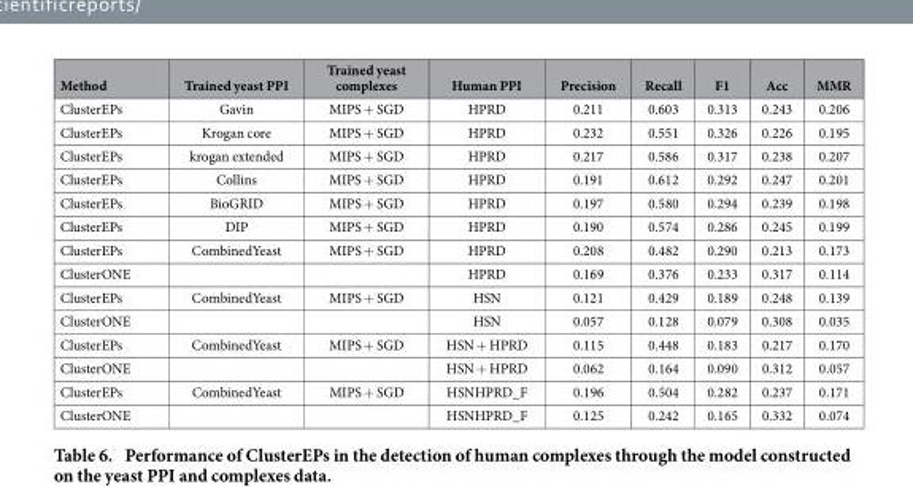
<table><thead><tr><td>Method</td><td>Trained yeast PPI</td><td>Trained yeast complexes</td><td>Human PPI</td><td>Precision</td><td>Recall</td><td>F1</td><td>Acc</td><td>MMR</td></tr></thead><tbody><tr><td>ClusterEPs</td><td>Gavin</td><td>MIPS + SGD</td><td>HPRD</td><td>0.211</td><td>0.603</td><td>0.313</td><td>0.243</td><td>0.206</td></tr><tr><td>ClusterEPs</td><td>Krogan core</td><td>MIPS + SGD</td><td>HPRD</td><td>0.232</td><td>0.551</td><td>0.326</td><td>0.226</td><td>0.195</td></tr><tr><td>ClusterEPs</td><td>krogan extended</td><td>MIPS + SGD</td><td>HPRD</td><td>0.217</td><td>0.586</td><td>0.317</td><td>0.238</td><td>0.207</td></tr><tr><td>ClusterEPs</td><td>Collins</td><td>MIPS + SGD</td><td>HPRD</td><td>0.191</td><td>0.612</td><td>0.292</td><td>0.247</td><td>0.201</td></tr><tr><td>ClusterEPs</td><td>BioGRID</td><td>MIPS + SGD</td><td>HPRD</td><td>0.197</td><td>0.580</td><td>0.294</td><td>0.239</td><td>0.198</td></tr><tr><td>ClusterEPs</td><td>DIP</td><td>MIPS + SGD</td><td>HPRD</td><td>0.190</td><td>0.574</td><td>0.286</td><td>0.245</td><td>0.199</td></tr><tr><td>ClusterEPs</td><td>CombinedYeast</td><td>MIPS + SGD</td><td>HPRD</td><td>0.208</td><td>0.482</td><td>0.290</td><td>0.213</td><td>0.173</td></tr><tr><td>ClusterONE</td><td></td><td></td><td>HPRD</td><td>0.169</td><td>0.376</td><td>0.233</td><td>0.317</td><td>0.114</td></tr><tr><td>ClusterEPs</td><td>CombinedYeast</td><td>MIPS + SGD</td><td>HSN</td><td>0.121</td><td>0.429</td><td>0.189</td><td>0.248</td><td>0.139</td></tr><tr><td>ClusterONE</td><td></td><td></td><td>HSN</td><td>0.057</td><td>0.128</td><td>0.079</td><td>0.308</td><td>0.035</td></tr><tr><td>ClusterEPs</td><td>CombinedYeast</td><td>MIPS + SGD</td><td>HSN + HPRD</td><td>0.115</td><td>0.448</td><td>0.183</td><td>0.217</td><td>0.170</td></tr><tr><td>ClusterONE</td><td></td><td></td><td>HSN + HPRD</td><td>0.062</td><td>0.164</td><td>0.090</td><td>0.312</td><td>0.057</td></tr><tr><td>ClusterEPs</td><td>CombinedYeast</td><td>MIPS + SGD</td><td>HSNHPRD_F</td><td>0.196</td><td>0.504</td><td>0.282</td><td>0.237</td><td>0.171</td></tr><tr><td>ClusterONE</td><td></td><td></td><td>HSNHPRD_F</td><td>0.125</td><td>0.242</td><td>0.165</td><td>0.332</td><td>0.074</td></tr></tbody></table>